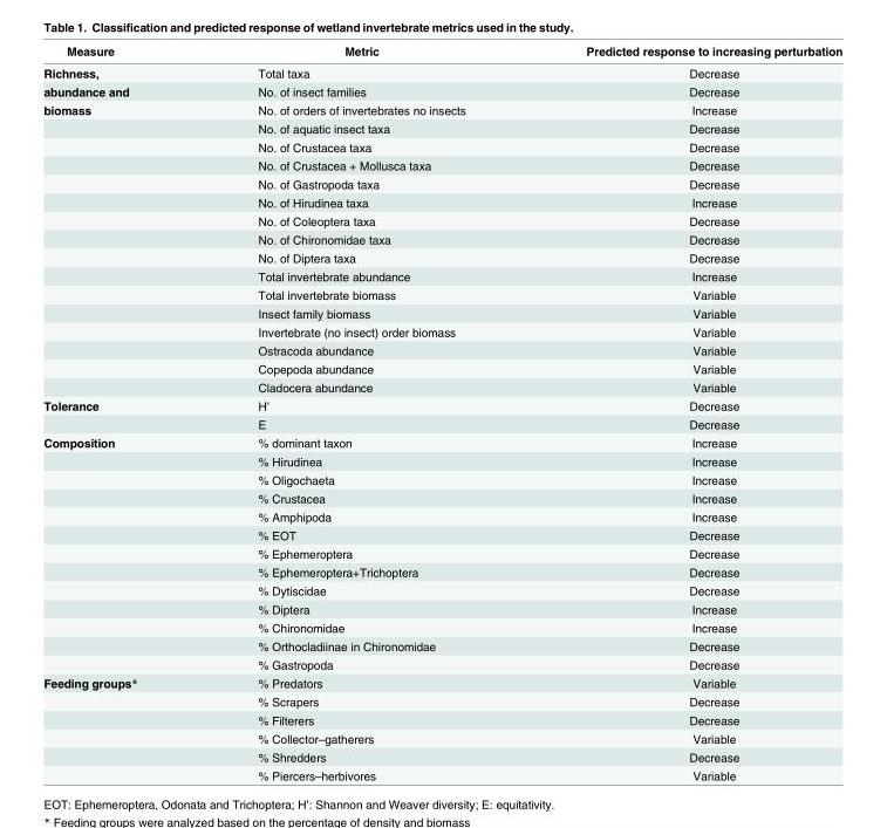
<table><thead><tr><td>Measure</td><td>Metric</td><td>Predicted response to increasing perturbation</td></tr></thead><tbody><tr><td>Richness,</td><td>Total taxa</td><td>Decrease</td></tr><tr><td>abundance and</td><td>No. of insect families</td><td>Decrease</td></tr><tr><td rowspan="16">biomass</td><td>No. of orders of invertebrates no insects</td><td>Increase</td></tr><tr><td>No. of aquatic insect taxa</td><td>Decrease</td></tr><tr><td>No. of Crustacea taxa</td><td>Decrease</td></tr><tr><td>No. of Crustacea + Mollusca taxa</td><td>Decrease</td></tr><tr><td>No. of Gastropoda taxa</td><td>Decrease</td></tr><tr><td>No. of Hirudinea taxa</td><td>Increase</td></tr><tr><td>No. of Coleoptera taxa</td><td>Decrease</td></tr><tr><td>No. of Chironomidae taxa</td><td>Decrease</td></tr><tr><td>No. of Diptera taxa</td><td>Decrease</td></tr><tr><td>Total invertebrate abundance</td><td>Increase</td></tr><tr><td>Total invertebrate biomass</td><td>Variable</td></tr><tr><td>Insect family biomass</td><td>Variable</td></tr><tr><td>Invertebrate (no insect) order biomass</td><td>Variable</td></tr><tr><td>Ostracoda abundance</td><td>Variable</td></tr><tr><td>Copepoda abundance</td><td>Variable</td></tr><tr><td>Cladocera abundance</td><td>Variable</td></tr><tr><td rowspan="2">Tolerance</td><td>H’</td><td>Decrease</td></tr><tr><td>E</td><td>Decrease</td></tr><tr><td rowspan="13">Composition</td><td>% dominant taxon</td><td>Increase</td></tr><tr><td>% Hirudinea</td><td>Increase</td></tr><tr><td>% Oligochaeta</td><td>Increase</td></tr><tr><td>% Crustacea</td><td>Increase</td></tr><tr><td>% Amphipoda</td><td>Increase</td></tr><tr><td>% EOT</td><td>Decrease</td></tr><tr><td>% Ephemeroptera</td><td>Decrease</td></tr><tr><td>% Ephemeroptera+Trichoptera</td><td>Decrease</td></tr><tr><td>% Dytiscidae</td><td>Decrease</td></tr><tr><td>% Diptera</td><td>Increase</td></tr><tr><td>% Chironomidae</td><td>Increase</td></tr><tr><td>% Orthocladiinae in Chironomidae</td><td>Decrease</td></tr><tr><td>% Gastropoda</td><td>Decrease</td></tr><tr><td rowspan="6">Feeding groups*</td><td>% Predators</td><td>Variable</td></tr><tr><td>% Scrapers</td><td>Decrease</td></tr><tr><td>% Filterers</td><td>Decrease</td></tr><tr><td>% Collector–gatherers</td><td>Variable</td></tr><tr><td>% Shredders</td><td>Decrease</td></tr><tr><td>% Piercers–herbivores</td><td>Variable</td></tr></tbody></table>